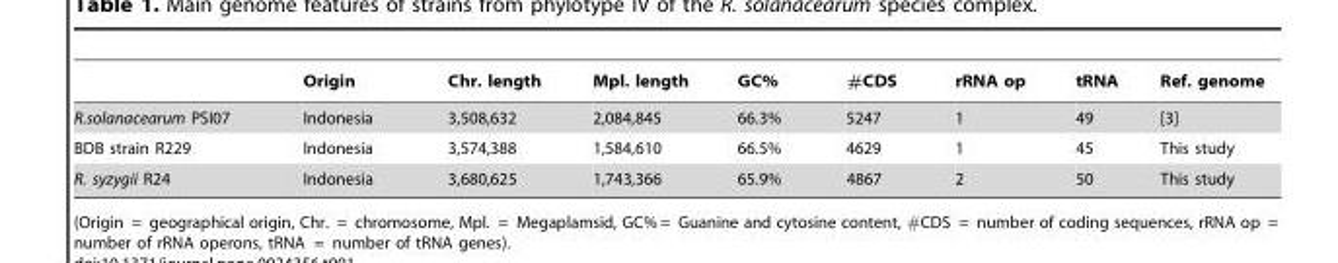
<table><thead><tr><td></td><td>Origin</td><td>Chr. length</td><td>Mpl. length</td><td>GC%</td><td>#CDS</td><td>rRNA op</td><td>tRNA</td><td>Ref. genome</td></tr></thead><tbody><tr><td>R.solanacearum PSI07</td><td>Indonesia</td><td>3,508,632</td><td>2,084,845</td><td>66.3%</td><td>5247</td><td>1</td><td>49</td><td>[3]</td></tr><tr><td>BDB strain R229</td><td>Indonesia</td><td>3,574,388</td><td>1,584,610</td><td>66.5%</td><td>4629</td><td>1</td><td>45</td><td>This study</td></tr><tr><td>R. syzygii R24</td><td>Indonesia</td><td>3,680,625</td><td>1,743,366</td><td>65.9%</td><td>4867</td><td>2</td><td>50</td><td>This study</td></tr></tbody></table>